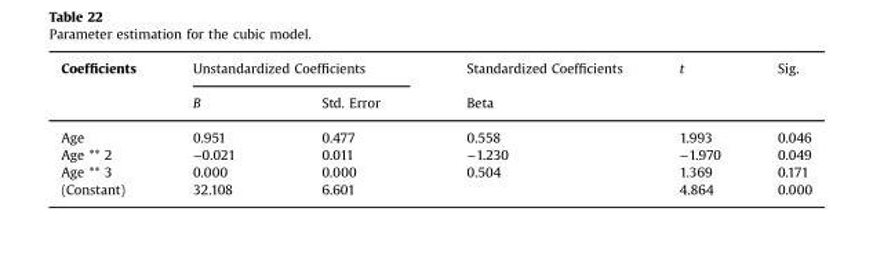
<table><thead><tr><td rowspan="2">Coefficients</td><td colspan="2">Unstandardized Coefficients</td><td rowspan="2">Standardized Coefficients Beta</td><td rowspan="2">t</td><td rowspan="2">Sig.</td></tr><tr><td>B</td><td>Std. Error</td></tr></thead><tbody><tr><td>Age</td><td>0.951</td><td>0.477</td><td>0.558</td><td>1.993</td><td>0.046</td></tr><tr><td>Age ** 2</td><td>−0.021</td><td>0.011</td><td>−1.230</td><td>−1.970</td><td>0.049</td></tr><tr><td>Age ** 3</td><td>0.000</td><td>0.000</td><td>0.504</td><td>1.369</td><td>0.171</td></tr><tr><td>(Constant)</td><td>32.108</td><td>6.601</td><td></td><td>4.864</td><td>0.000</td></tr></tbody></table>